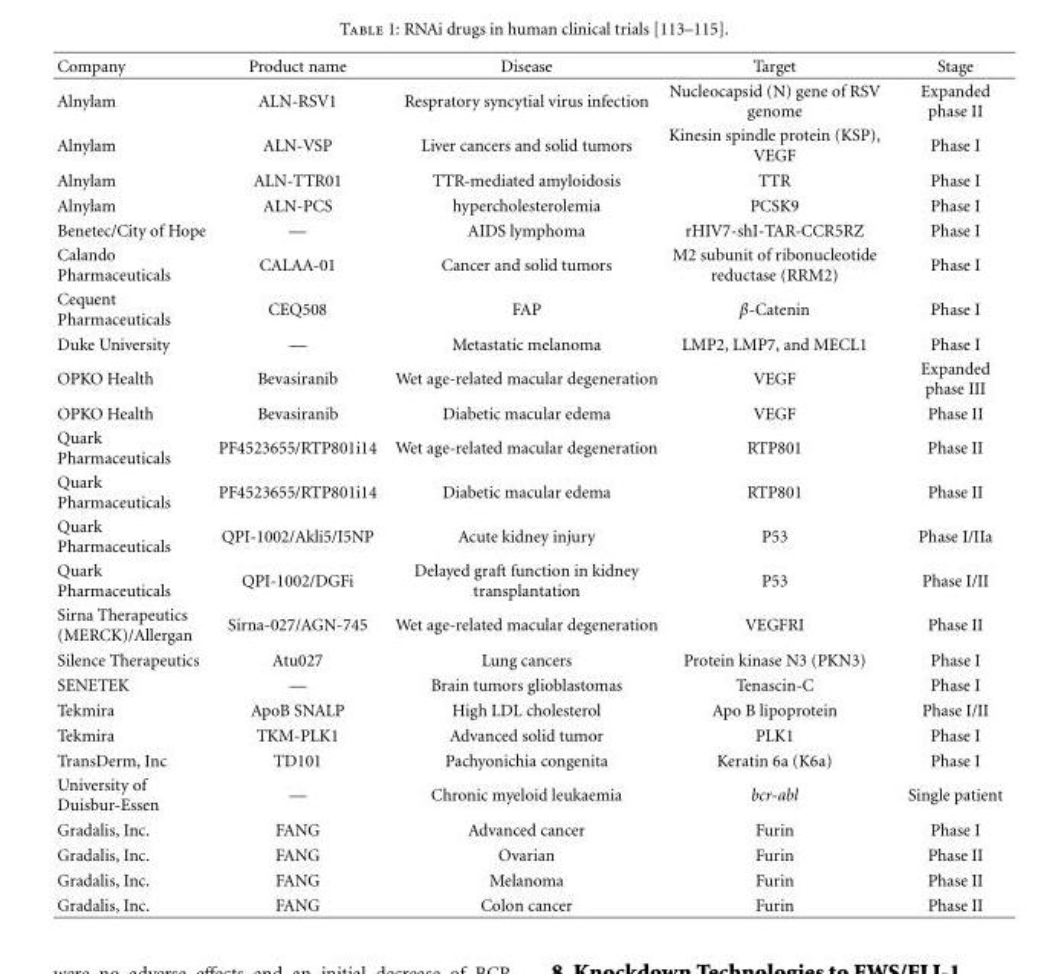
<table><thead><tr><td>Company</td><td>Product name</td><td>Disease</td><td>Target</td><td>Stage</td></tr></thead><tbody><tr><td>Alnylam</td><td>ALN-RSV1</td><td>Respratory syncytial virus infection</td><td>Nucleocapsid (N) gene of RSV genome</td><td>Expanded phase II</td></tr><tr><td>Alnylam</td><td>ALN-VSP</td><td>Liver cancers and solid tumors</td><td>Kinesin spindle protein (KSP), VEGF</td><td>Phase I</td></tr><tr><td>Alnylam</td><td>ALN-TTR01</td><td>TTR-mediated amyloidosis</td><td>TTR</td><td>Phase I</td></tr><tr><td>Alnylam</td><td>ALN-PCS</td><td>hypercholesterolemia</td><td>PCSK9</td><td>Phase I</td></tr><tr><td>Benetec/City of Hope</td><td>—</td><td>AIDS lymphoma</td><td>rHIV7-shI-TAR-CCR5RZ</td><td>Phase I</td></tr><tr><td>Calando Pharmaceuticals</td><td>CALAA-01</td><td>Cancer and solid tumors</td><td>M2 subunit of ribonucleotide reductase (RRM2)</td><td>Phase I</td></tr><tr><td>Cequent Pharmaceuticals</td><td>CEQ508</td><td>FAP</td><td>β-Catenin</td><td>Phase I</td></tr><tr><td>Duke University</td><td>—</td><td>Metastatic melanoma</td><td>LMP2, LMP7, and MECL1</td><td>Phase I</td></tr><tr><td>OPKO Health</td><td>Bevasiranib</td><td>Wet age-related macular degeneration</td><td>VEGF</td><td>Expanded phase III</td></tr><tr><td>OPKO Health</td><td>Bevasiranib</td><td>Diabetic macular edema</td><td>VEGF</td><td>Phase II</td></tr><tr><td>Quark Pharmaceuticals</td><td>PF4523655/RTP801i14</td><td>Wet age-related macular degeneration</td><td>RTP801</td><td>Phase II</td></tr><tr><td>Quark Pharmaceuticals</td><td>PF4523655/RTP801i14</td><td>Diabetic macular edema</td><td>RTP801</td><td>Phase II</td></tr><tr><td>Quark Pharmaceuticals</td><td>QPI-1002/Akli5/I5NP</td><td>Acute kidney injury</td><td>P53</td><td>Phase I/IIa</td></tr><tr><td>Quark Pharmaceuticals</td><td>QPI-1002/DGFi</td><td>Delayed graft function in kidney transplantation</td><td>P53</td><td>Phase I/II</td></tr><tr><td>Sirna Therapeutics (MERCK)/Allergan</td><td>Sirna-027/AGN-745</td><td>Wet age-related macular degeneration</td><td>VEGFRI</td><td>Phase II</td></tr><tr><td>Silence Therapeutics</td><td>Atu027</td><td>Lung cancers</td><td>Protein kinase N3 (PKN3)</td><td>Phase I</td></tr><tr><td>SENETEK</td><td>—</td><td>Brain tumors glioblastomas</td><td>Tenascin-C</td><td>Phase I</td></tr><tr><td>Tekmira</td><td>ApoB SNALP</td><td>High LDL cholesterol</td><td>Apo B lipoprotein</td><td>Phase I/II</td></tr><tr><td>Tekmira</td><td>TKM-PLK1</td><td>Advanced solid tumor</td><td>PLK1</td><td>Phase I</td></tr><tr><td>TransDerm, Inc</td><td>TD101</td><td>Pachyonichia congenita</td><td>Keratin 6a (K6a)</td><td>Phase I</td></tr><tr><td>University of Duisbur-Essen</td><td>—</td><td>Chronic myeloid leukaemia</td><td>bcr-abl</td><td>Single patient</td></tr><tr><td>Gradalis, Inc.</td><td>FANG</td><td>Advanced cancer</td><td>Furin</td><td>Phase I</td></tr><tr><td>Gradalis, Inc.</td><td>FANG</td><td>Ovarian</td><td>Furin</td><td>Phase II</td></tr><tr><td>Gradalis, Inc.</td><td>FANG</td><td>Melanoma</td><td>Furin</td><td>Phase II</td></tr><tr><td>Gradalis, Inc.</td><td>FANG</td><td>Colon cancer</td><td>Furin</td><td>Phase II</td></tr></tbody></table>